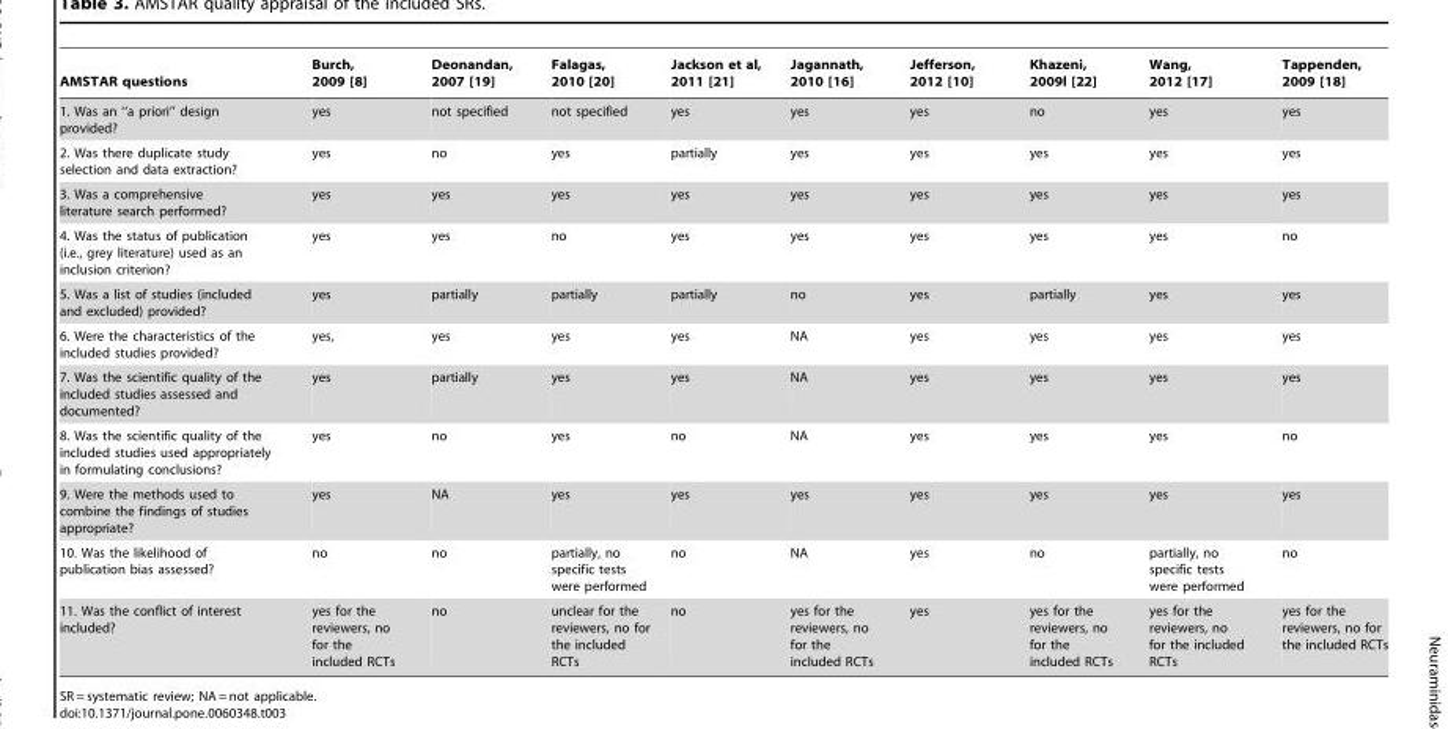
<table><thead><tr><td>AMSTAR questions</td><td>Burch, 2009 [8]</td><td>Deonandan, 2007 [19]</td><td>Falagas, 2010 [20]</td><td>Jackson et al, 2011 [21]</td><td>Jagannath, 2010 [16]</td><td>Jefferson, 2012 [10]</td><td>Khazeni, 2009l [22]</td><td>Wang, 2012 [17]</td><td>Tappenden, 2009 [18]</td></tr></thead><tbody><tr><td>1. Was an ‘‘a priori’’ design provided?</td><td>yes</td><td>not specified</td><td>not specified</td><td>yes</td><td>yes</td><td>yes</td><td>no</td><td>yes</td><td>yes</td></tr><tr><td>2. Was there duplicate study selection and data extraction?</td><td>yes</td><td>no</td><td>yes</td><td>partially</td><td>yes</td><td>yes</td><td>yes</td><td>yes</td><td>yes</td></tr><tr><td>3. Was a comprehensive literature search performed?</td><td>yes</td><td>yes</td><td>yes</td><td>yes</td><td>yes</td><td>yes</td><td>yes</td><td>yes</td><td>yes</td></tr><tr><td>4. Was the status of publication (i.e., grey literature) used as an inclusion criterion?</td><td>yes</td><td>yes</td><td>no</td><td>yes</td><td>yes</td><td>yes</td><td>yes</td><td>yes</td><td>no</td></tr><tr><td>5. Was a list of studies (included and excluded) provided?</td><td>yes</td><td>partially</td><td>partially</td><td>partially</td><td>no</td><td>yes</td><td>partially</td><td>yes</td><td>yes</td></tr><tr><td>6. Were the characteristics of the included studies provided?</td><td>yes,</td><td>yes</td><td>yes</td><td>yes</td><td>NA</td><td>yes</td><td>yes</td><td>yes</td><td>yes</td></tr><tr><td>7. Was the scientific quality of the included studies assessed and documented?</td><td>yes</td><td>partially</td><td>yes</td><td>yes</td><td>NA</td><td>yes</td><td>yes</td><td>yes</td><td>yes</td></tr><tr><td>8. Was the scientific quality of the included studies used appropriately in formulating conclusions?</td><td>yes</td><td>no</td><td>yes</td><td>no</td><td>NA</td><td>yes</td><td>yes</td><td>yes</td><td>no</td></tr><tr><td>9. Were the methods used to combine the findings of studies appropriate?</td><td>yes</td><td>NA</td><td>yes</td><td>yes</td><td>yes</td><td>yes</td><td>yes</td><td>yes</td><td>yes</td></tr><tr><td>10. Was the likelihood of publication bias assessed?</td><td>no</td><td>no</td><td>partially, no specific tests were performed</td><td>no</td><td>NA</td><td>yes</td><td>no</td><td>partially, no specific tests were performed</td><td>no</td></tr><tr><td>11. Was the conflict of interest included?</td><td>yes for the reviewers, no for the included RCTs</td><td>no</td><td>unclear for the reviewers, no for the included RCTs</td><td>no</td><td>yes for the reviewers, no for the included RCTs</td><td>yes</td><td>yes for the reviewers, no for the included RCTs</td><td>yes for the reviewers, no for the included RCTs</td><td>yes for the reviewers, no for the included RCTs</td></tr></tbody></table>